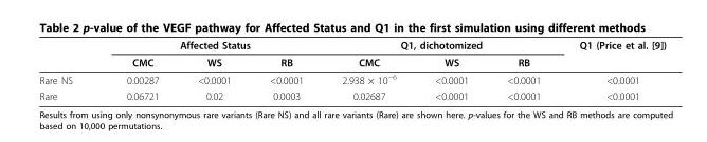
<table><thead><tr><td rowspan="2"></td><td colspan="3">Affected Status</td><td colspan="3">Q1, dichotomized</td><td rowspan="2">Q1 (Price et al. [9])</td></tr><tr><td>CMC</td><td>WS</td><td>RB</td><td>CMC</td><td>WS</td><td>RB</td></tr></thead><tbody><tr><td>Rare NS</td><td>0.00287</td><td>&lt;0.0001</td><td>&lt;0.0001</td><td>2.938 × 10<sup>−6</sup></td><td>&lt;0.0001</td><td>&lt;0.0001</td><td>&lt;0.0001</td></tr><tr><td>Rare</td><td>0.06721</td><td>0.02</td><td>0.0003</td><td>0.02687</td><td>&lt;0.0001</td><td>&lt;0.0001</td><td>&lt;0.0001</td></tr></tbody></table>